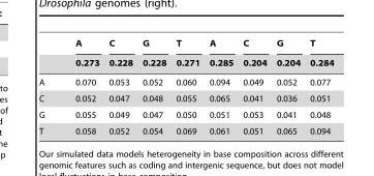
<table><thead><tr><td rowspan="2"></td><td rowspan="2">A 0.273</td><td rowspan="2">C 0.228</td><td rowspan="2">G 0.228</td><td rowspan="2">T 0.271</td><td rowspan="2">A 0.285</td><td rowspan="2">C 0.204</td><td rowspan="2">G 0.204</td><td rowspan="2">T 0.284</td></tr><tr></tr></thead><tbody><tr><td>A</td><td>0.070</td><td>0.053</td><td>0.052</td><td>0.060</td><td>0.094</td><td>0.049</td><td>0.052</td><td>0.077</td></tr><tr><td>C</td><td>0.052</td><td>0.047</td><td>0.048</td><td>0.055</td><td>0.065</td><td>0.041</td><td>0.036</td><td>0.051</td></tr><tr><td>G</td><td>0.055</td><td>0.049</td><td>0.047</td><td>0.050</td><td>0.051</td><td>0.053</td><td>0.041</td><td>0.048</td></tr><tr><td>T</td><td>0.058</td><td>0.052</td><td>0.054</td><td>0.069</td><td>0.061</td><td>0.051</td><td>0.065</td><td>0.094</td></tr></tbody></table>